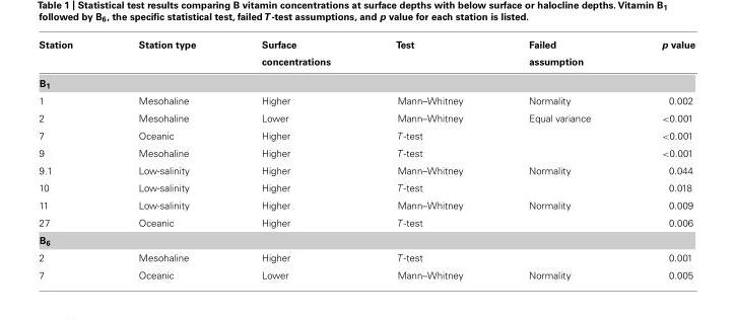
<table><thead><tr><td>Station</td><td>Station type</td><td>Surface concentrations</td><td>Test</td><td>Failed assumption</td><td>p value</td></tr></thead><tbody><tr><td colspan="6">B<sub>1</sub></td></tr><tr><td>1</td><td>Mesohaline</td><td>Higher</td><td>Mann–Whitney</td><td>Normality</td><td>0.002</td></tr><tr><td>2</td><td>Mesohaline</td><td>Lower</td><td>Mann–Whitney</td><td>Equal variance</td><td>&lt;0.001</td></tr><tr><td>7</td><td>Oceanic</td><td>Higher</td><td>T -test</td><td></td><td>&lt;0.001</td></tr><tr><td>9</td><td>Mesohaline</td><td>Higher</td><td>T -test</td><td></td><td>&lt;0.001</td></tr><tr><td>9.1</td><td>Low-salinity</td><td>Higher</td><td>Mann–Whitney</td><td>Normality</td><td>0.044</td></tr><tr><td>10</td><td>Low-salinity</td><td>Higher</td><td>T -test</td><td></td><td>0.018</td></tr><tr><td>11</td><td>Low-salinity</td><td>Higher</td><td>Mann–Whitney</td><td>Normality</td><td>0.009</td></tr><tr><td>27</td><td>Oceanic</td><td>Higher</td><td>T -test</td><td></td><td>0.006</td></tr><tr><td colspan="6">B<sub>6</sub></td></tr><tr><td>2</td><td>Mesohaline</td><td>Higher</td><td>T -test</td><td></td><td>0.001</td></tr><tr><td>7</td><td>Oceanic</td><td>Lower</td><td>Mann–Whitney</td><td>Normality</td><td>0.005</td></tr></tbody></table>